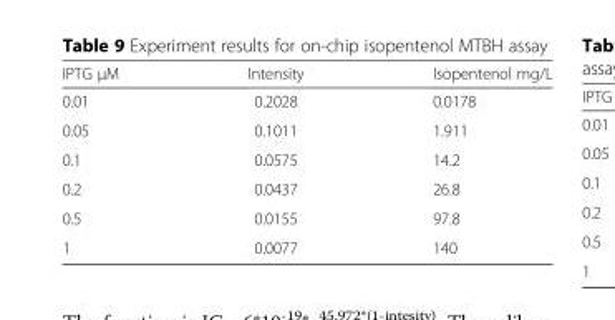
<table><thead><tr><td>IPTG μM</td><td>Intensity</td><td>Isopentenol mg/L</td></tr></thead><tbody><tr><td>0.01</td><td>0.2028</td><td>0.0178</td></tr><tr><td>0.05</td><td>0.1011</td><td>1.911</td></tr><tr><td>0.1</td><td>0.0575</td><td>14.2</td></tr><tr><td>0.2</td><td>0.0437</td><td>26.8</td></tr><tr><td>0.5</td><td>0.0155</td><td>97.8</td></tr><tr><td>1</td><td>0.0077</td><td>140</td></tr></tbody></table>